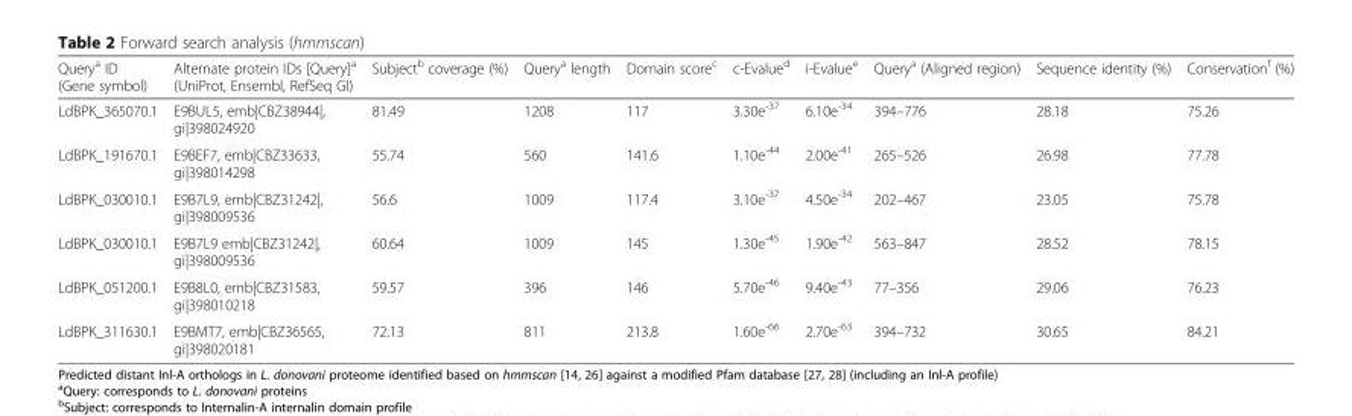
<table><thead><tr><td>Query<sup>a</sup> ID (Gene symbol)</td><td>Alternate protein IDs [Query]<sup>a</sup> (UniProt, Ensembl, RefSeq GI)</td><td>Subject<sup>b</sup> coverage (%)</td><td>Query<sup>a</sup> length</td><td>Domain score<sup>c</sup></td><td>c-Evalue<sup>d</sup></td><td>i-Evalue<sup>e</sup></td><td>Query<sup>a</sup> (Aligned region)</td><td>Sequence identity (%)</td><td>Conservation<sup>f</sup> (%)</td></tr></thead><tbody><tr><td>LdBPK_365070.1</td><td>E9BUL5, emb|CBZ38944|, gi|398024920</td><td>81.49</td><td>1208</td><td>117</td><td>3.30e<sup>-37</sup></td><td>6.10e<sup>-34</sup></td><td>394–776</td><td>28.18</td><td>75.26</td></tr><tr><td>LdBPK_191670.1</td><td>E9BEF7, emb|CBZ33633, gi|398014298</td><td>55.74</td><td>560</td><td>141.6</td><td>1.10e<sup>-44</sup></td><td>2.00e<sup>-41</sup></td><td>265–526</td><td>26.98</td><td>77.78</td></tr><tr><td>LdBPK_030010.1</td><td>E9B7L9, emb|CBZ31242|, gi|398009536</td><td>56.6</td><td>1009</td><td>117.4</td><td>3.10e<sup>-37</sup></td><td>4.50e<sup>-34</sup></td><td>202–467</td><td>23.05</td><td>75.78</td></tr><tr><td>LdBPK_030010.1</td><td>E9B7L9 emb|CBZ31242|, gi|398009536</td><td>60.64</td><td>1009</td><td>145</td><td>1.30e<sup>-45</sup></td><td>1.90e<sup>-42</sup></td><td>563–847</td><td>28.52</td><td>78.15</td></tr><tr><td>LdBPK_051200.1</td><td>E9B8L0, emb|CBZ31583, gi|398010218</td><td>59.57</td><td>396</td><td>146</td><td>5.70e<sup>-46</sup></td><td>9.40e<sup>-43</sup></td><td>77–356</td><td>29.06</td><td>76.23</td></tr><tr><td>LdBPK_311630.1</td><td>E9BMT7, emb|CBZ36565, gi|398020181</td><td>72.13</td><td>811</td><td>213.8</td><td>1.60e<sup>-66</sup></td><td>2.70e<sup>-63</sup></td><td>394–732</td><td>30.65</td><td>84.21</td></tr></tbody></table>